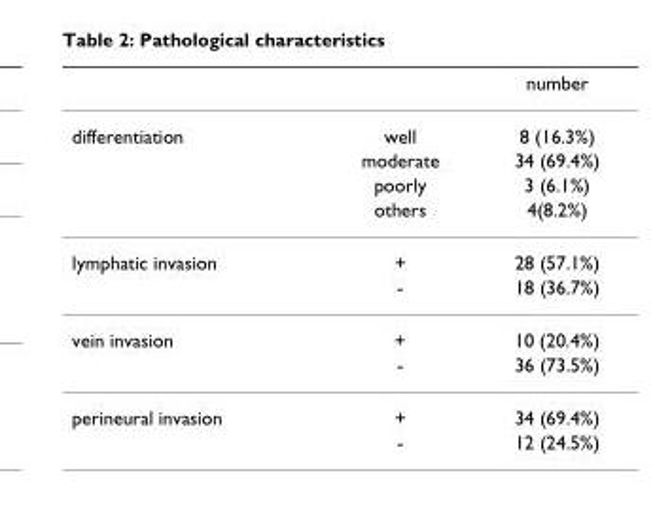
<table><thead><tr><td></td><td></td><td>number</td></tr></thead><tbody><tr><td rowspan="4">differentiation</td><td>well</td><td>8 (16.3%)</td></tr><tr><td>moderate</td><td>34 (69.4%)</td></tr><tr><td>poorly</td><td>3 (6.1%)</td></tr><tr><td>others</td><td>4(8.2%)</td></tr><tr><td rowspan="2">lymphatic invasion</td><td>+</td><td>28 (57.1%)</td></tr><tr><td>-</td><td>18 (36.7%)</td></tr><tr><td rowspan="2">vein invasion</td><td>+</td><td>10 (20.4%)</td></tr><tr><td>-</td><td>36 (73.5%)</td></tr><tr><td rowspan="2">perineural invasion</td><td>+</td><td>34 (69.4%)</td></tr><tr><td>-</td><td>12 (24.5%)</td></tr></tbody></table>